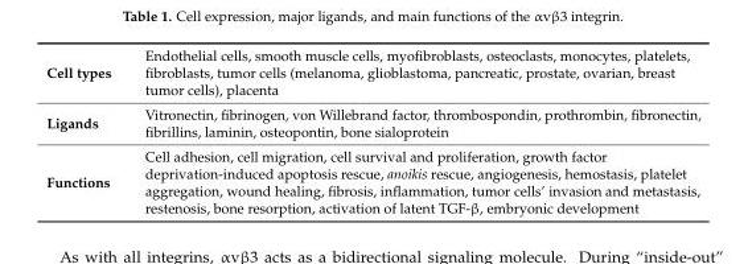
<table><tbody><tr><td>Cell types</td><td>Endothelial cells, smooth muscle cells, myofibroblasts, osteoclasts, monocytes, platelets, fibroblasts, tumor cells (melanoma, glioblastoma, pancreatic, prostate, ovarian, breast tumor cells), placenta</td></tr><tr><td>Ligands</td><td>Vitronectin, fibrinogen, von Willebrand factor, thrombospondin, prothrombin, fibronectin, fibrillins, laminin, osteopontin, bone sialoprotein</td></tr><tr><td>Functions</td><td>Cell adhesion, cell migration, cell survival and proliferation, growth factor deprivation-induced apoptosis rescue, anoikis rescue, angiogenesis, hemostasis, platelet aggregation, wound healing, fibrosis, inflammation, tumor cells’ invasion and metastasis, restenosis, bone resorption, activation of latent TGF-β, embryonic development</td></tr></tbody></table>